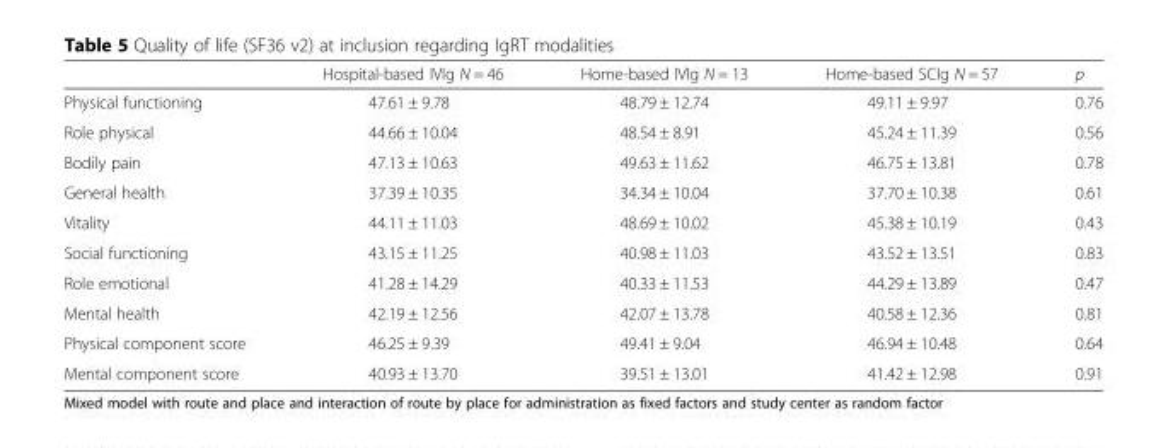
<table><thead><tr><td></td><td>Hospital-based IVIg N = 46</td><td>Home-based IVIg N = 13</td><td>Home-based SCIg N = 57</td><td>p</td></tr></thead><tbody><tr><td>Physical functioning</td><td>47.61 ± 9.78</td><td>48.79 ± 12.74</td><td>49.11 ± 9.97</td><td>0.76</td></tr><tr><td>Role physical</td><td>44.66 ± 10.04</td><td>48.54 ± 8.91</td><td>45.24 ± 11.39</td><td>0.56</td></tr><tr><td>Bodily pain</td><td>47.13 ± 10.63</td><td>49.63 ± 11.62</td><td>46.75 ± 13.81</td><td>0.78</td></tr><tr><td>General health</td><td>37.39 ± 10.35</td><td>34.34 ± 10.04</td><td>37.70 ± 10.38</td><td>0.61</td></tr><tr><td>Vitality</td><td>44.11 ± 11.03</td><td>48.69 ± 10.02</td><td>45.38 ± 10.19</td><td>0.43</td></tr><tr><td>Social functioning</td><td>43.15 ± 11.25</td><td>40.98 ± 11.03</td><td>43.52 ± 13.51</td><td>0.83</td></tr><tr><td>Role emotional</td><td>41.28 ± 14.29</td><td>40.33 ± 11.53</td><td>44.29 ± 13.89</td><td>0.47</td></tr><tr><td>Mental health</td><td>42.19 ± 12.56</td><td>42.07 ± 13.78</td><td>40.58 ± 12.36</td><td>0.81</td></tr><tr><td>Physical component score</td><td>46.25 ± 9.39</td><td>49.41 ± 9.04</td><td>46.94 ± 10.48</td><td>0.64</td></tr><tr><td>Mental component score</td><td>40.93 ± 13.70</td><td>39.51 ± 13.01</td><td>41.42 ± 12.98</td><td>0.91</td></tr></tbody></table>